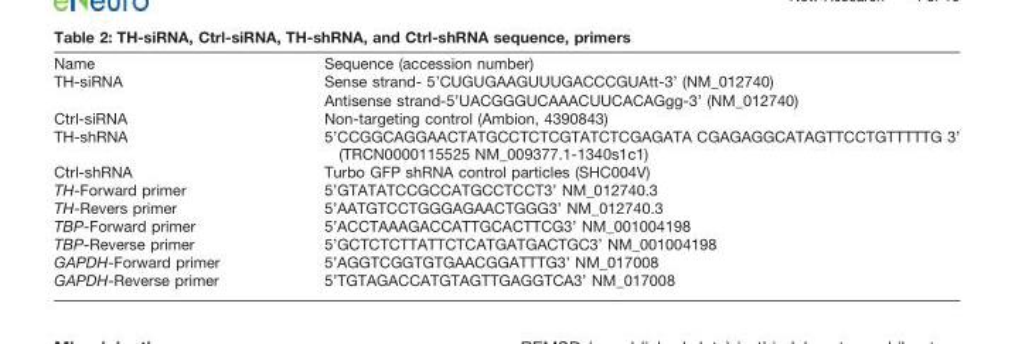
<table><thead><tr><td>Name</td><td>Sequence (accession number)</td></tr></thead><tbody><tr><td rowspan="2">TH-siRNA</td><td>Sense strand- 5’CUGUGAAGUUUGACCCGUAtt-3’ (NM_012740)</td></tr><tr><td>Antisense strand-5’UACGGGUCAAACUUCACAGgg-3’ (NM_012740)</td></tr><tr><td>Ctrl-siRNA</td><td>Non-targeting control (Ambion, 4390843)</td></tr><tr><td>TH-shRNA</td><td>5’CCGGCAGGAACTATGCCTCTCGTATCTCGAGATA CGAGAGGCATAGTTCCTGTTTTTG 3’ (TRCN0000115525 NM_009377.1-1340s1c1)</td></tr><tr><td>Ctrl-shRNA</td><td>Turbo GFP shRNA control particles (SHC004V)</td></tr><tr><td>TH-Forward primer</td><td>5’GTATATCCGCCATGCCTCCT3’ NM_012740.3</td></tr><tr><td>TH-Revers primer</td><td>5’AATGTCCTGGGAGAACTGGG3’ NM_012740.3</td></tr><tr><td>TBP-Forward primer</td><td>5’ACCTAAAGACCATTGCACTTCG3’ NM_001004198</td></tr><tr><td>TBP-Reverse primer</td><td>5’GCTCTCTTATTCTCATGATGACTGC3’ NM_001004198</td></tr><tr><td>GAPDH-Forward primer</td><td>5’AGGTCGGTGTGAACGGATTTG3’ NM_017008</td></tr><tr><td>GAPDH-Reverse primer</td><td>5’TGTAGACCATGTAGTTGAGGTCA3’ NM_017008</td></tr></tbody></table>